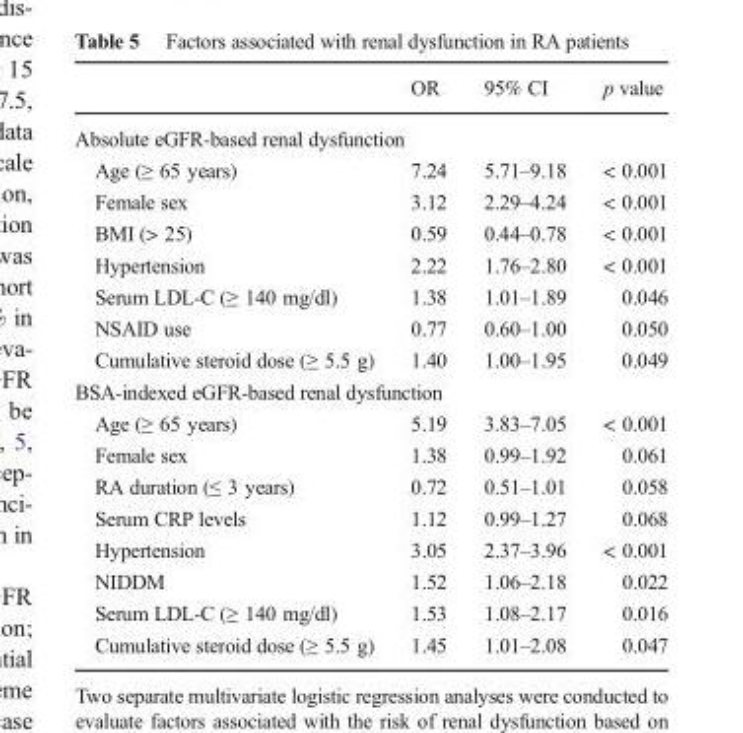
<table><thead><tr><td></td><td>OR</td><td>95% CI</td><td>p value</td></tr></thead><tbody><tr><td colspan="4">Absolute eGFR-based renal dysfunction</td></tr><tr><td>Age (≥ 65 years)</td><td>7.24</td><td>5.71–9.18</td><td>&lt; 0.001</td></tr><tr><td>Female sex</td><td>3.12</td><td>2.29–4.24</td><td>&lt; 0.001</td></tr><tr><td>BMI (&gt; 25)</td><td>0.59</td><td>0.44–0.78</td><td>&lt; 0.001</td></tr><tr><td>Hypertension</td><td>2.22</td><td>1.76–2.80</td><td>&lt; 0.001</td></tr><tr><td>Serum LDL-C (≥ 140 mg/dl)</td><td>1.38</td><td>1.01–1.89</td><td>0.046</td></tr><tr><td>NSAID use</td><td>0.77</td><td>0.60–1.00</td><td>0.050</td></tr><tr><td>Cumulative steroid dose (≥ 5.5 g)</td><td>1.40</td><td>1.00–1.95</td><td>0.049</td></tr><tr><td colspan="4">BSA-indexed eGFR-based renal dysfunction</td></tr><tr><td>Age (≥ 65 years)</td><td>5.19</td><td>3.83–7.05</td><td>&lt; 0.001</td></tr><tr><td>Female sex</td><td>1.38</td><td>0.99–1.92</td><td>0.061</td></tr><tr><td>RA duration (≤ 3 years)</td><td>0.72</td><td>0.51–1.01</td><td>0.058</td></tr><tr><td>Serum CRP levels</td><td>1.12</td><td>0.99–1.27</td><td>0.068</td></tr><tr><td>Hypertension</td><td>3.05</td><td>2.37–3.96</td><td>&lt; 0.001</td></tr><tr><td>NIDDM</td><td>1.52</td><td>1.06–2.18</td><td>0.022</td></tr><tr><td>Serum LDL-C (≥ 140 mg/dl)</td><td>1.53</td><td>1.08–2.17</td><td>0.016</td></tr><tr><td>Cumulative steroid dose (≥ 5.5 g)</td><td>1.45</td><td>1.01–2.08</td><td>0.047</td></tr></tbody></table>